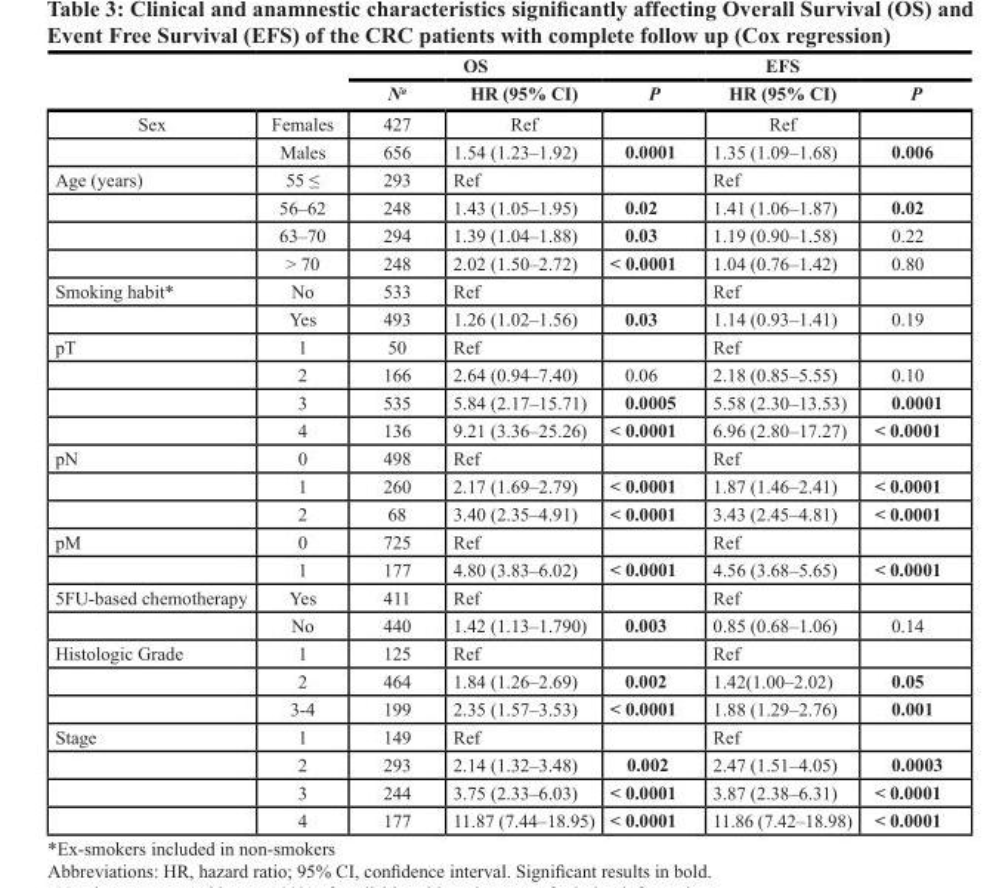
<table><thead><tr><td rowspan="2"></td><td rowspan="2"></td><td colspan="3">OS</td><td colspan="2">EFS</td></tr><tr><td>N<sup>a</sup></td><td>HR (95% CI)</td><td>P</td><td>HR (95% CI)</td><td>P</td></tr></thead><tbody><tr><td rowspan="2">Sex</td><td>Females</td><td>427</td><td>Ref</td><td></td><td>Ref</td><td></td></tr><tr><td>Males</td><td>656</td><td>1.54 (1.23–1.92)</td><td>0.0001</td><td>1.35 (1.09–1.68)</td><td>0.006</td></tr><tr><td rowspan="4">Age (years)</td><td>55 ≤</td><td>293</td><td>Ref</td><td></td><td>Ref</td><td></td></tr><tr><td>56–62</td><td>248</td><td>1.43 (1.05–1.95)</td><td>0.02</td><td>1.41 (1.06–1.87)</td><td>0.02</td></tr><tr><td>63–70</td><td>294</td><td>1.39 (1.04–1.88)</td><td>0.03</td><td>1.19 (0.90–1.58)</td><td>0.22</td></tr><tr><td>&gt; 70</td><td>248</td><td>2.02 (1.50–2.72)</td><td>&lt; 0.0001</td><td>1.04 (0.76–1.42)</td><td>0.80</td></tr><tr><td rowspan="2">Smoking habit*</td><td>No</td><td>533</td><td>Ref</td><td></td><td>Ref</td><td></td></tr><tr><td>Yes</td><td>493</td><td>1.26 (1.02–1.56)</td><td>0.03</td><td>1.14 (0.93–1.41)</td><td>0.19</td></tr><tr><td rowspan="4">pT</td><td>1</td><td>50</td><td>Ref</td><td></td><td>Ref</td><td></td></tr><tr><td>2</td><td>166</td><td>2.64 (0.94–7.40)</td><td>0.06</td><td>2.18 (0.85–5.55)</td><td>0.10</td></tr><tr><td>3</td><td>535</td><td>5.84 (2.17–15.71)</td><td>0.0005</td><td>5.58 (2.30–13.53)</td><td>0.0001</td></tr><tr><td>4</td><td>136</td><td>9.21 (3.36–25.26)</td><td>&lt; 0.0001</td><td>6.96 (2.80–17.27)</td><td>&lt; 0.0001</td></tr><tr><td rowspan="3">pN</td><td>0</td><td>498</td><td>Ref</td><td></td><td>Ref</td><td></td></tr><tr><td>1</td><td>260</td><td>2.17 (1.69–2.79)</td><td>&lt; 0.0001</td><td>1.87 (1.46–2.41)</td><td>&lt; 0.0001</td></tr><tr><td>2</td><td>68</td><td>3.40 (2.35–4.91)</td><td>&lt; 0.0001</td><td>3.43 (2.45–4.81)</td><td>&lt; 0.0001</td></tr><tr><td rowspan="2">pM</td><td>0</td><td>725</td><td>Ref</td><td></td><td>Ref</td><td></td></tr><tr><td>1</td><td>177</td><td>4.80 (3.83–6.02)</td><td>&lt; 0.0001</td><td>4.56 (3.68–5.65)</td><td>&lt; 0.0001</td></tr><tr><td rowspan="2">5FU-based chemotherapy</td><td>Yes</td><td>411</td><td>Ref</td><td></td><td>Ref</td><td></td></tr><tr><td>No</td><td>440</td><td>1.42 (1.13–1.790)</td><td>0.003</td><td>0.85 (0.68–1.06)</td><td>0.14</td></tr><tr><td rowspan="3">Histologic Grade</td><td>1</td><td>125</td><td>Ref</td><td></td><td>Ref</td><td></td></tr><tr><td>2</td><td>464</td><td>1.84 (1.26–2.69)</td><td>0.002</td><td>1.42(1.00–2.02)</td><td>0.05</td></tr><tr><td>3-4</td><td>199</td><td>2.35 (1.57–3.53)</td><td>&lt; 0.0001</td><td>1.88 (1.29–2.76)</td><td>0.001</td></tr><tr><td rowspan="4">Stage</td><td>1</td><td>149</td><td>Ref</td><td></td><td>Ref</td><td></td></tr><tr><td>2</td><td>293</td><td>2.14 (1.32–3.48)</td><td>0.002</td><td>2.47 (1.51–4.05)</td><td>0.0003</td></tr><tr><td>3</td><td>244</td><td>3.75 (2.33–6.03)</td><td>&lt; 0.0001</td><td>3.87 (2.38–6.31)</td><td>&lt; 0.0001</td></tr><tr><td>4</td><td>177</td><td>11.87 (7.44–18.95)</td><td>&lt; 0.0001</td><td>11.86 (7.42–18.98)</td><td>&lt; 0.0001</td></tr></tbody></table>